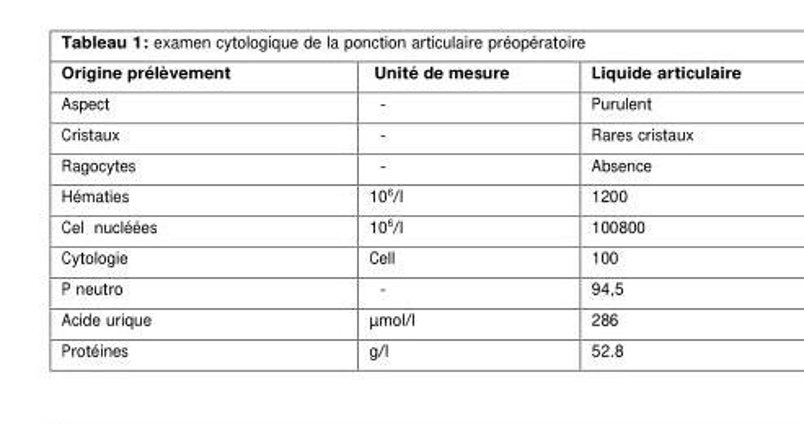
<table><thead><tr><td>Origine prélèvement</td><td>Unité de mesure</td><td>Liquide articulaire</td></tr></thead><tbody><tr><td>Aspect</td><td>-</td><td>Purulent</td></tr><tr><td>Cristaux</td><td>-</td><td>Rares cristaux</td></tr><tr><td>Ragocytes</td><td>-</td><td>Absence</td></tr><tr><td>Hématies</td><td>10<sup>6</sup>/l</td><td>1200</td></tr><tr><td>Cel nucléées</td><td>10<sup>6</sup>/l</td><td>100800</td></tr><tr><td>Cytologie</td><td>Cell</td><td>100</td></tr><tr><td>P neutro</td><td>-</td><td>94,5</td></tr><tr><td>Acide urique</td><td>µmol/l</td><td>286</td></tr><tr><td>Protéines</td><td>g/l</td><td>52.8</td></tr></tbody></table>